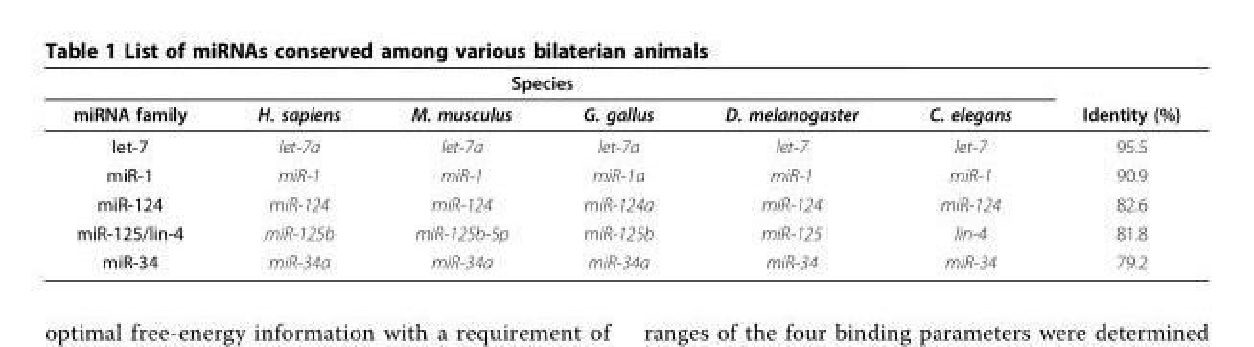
<table><thead><tr><td colspan="6">Species</td><td rowspan="2">Identity (%)</td></tr><tr><td>miRNA family</td><td>H. sapiens</td><td>M. musculus</td><td>G. gallus</td><td>D. melanogaster</td><td>C. elegans</td></tr></thead><tbody><tr><td>let-7</td><td>let-7a</td><td>let-7a</td><td>let-7a</td><td>let-7</td><td>let-7</td><td>95.5</td></tr><tr><td>miR-1</td><td>miR-1</td><td>miR-1</td><td>miR-1a</td><td>miR-1</td><td>miR-1</td><td>90.9</td></tr><tr><td>miR-124</td><td>miR-124</td><td>miR-124</td><td>miR-124a</td><td>miR-124</td><td>miR-124</td><td>82.6</td></tr><tr><td>miR-125/lin-4</td><td>miR-125b</td><td>miR-125b-5p</td><td>miR-125b</td><td>miR-125</td><td>lin-4</td><td>81.8</td></tr><tr><td>miR-34</td><td>miR-34a</td><td>miR-34a</td><td>miR-34a</td><td>miR-34</td><td>miR-34</td><td>79.2</td></tr></tbody></table>